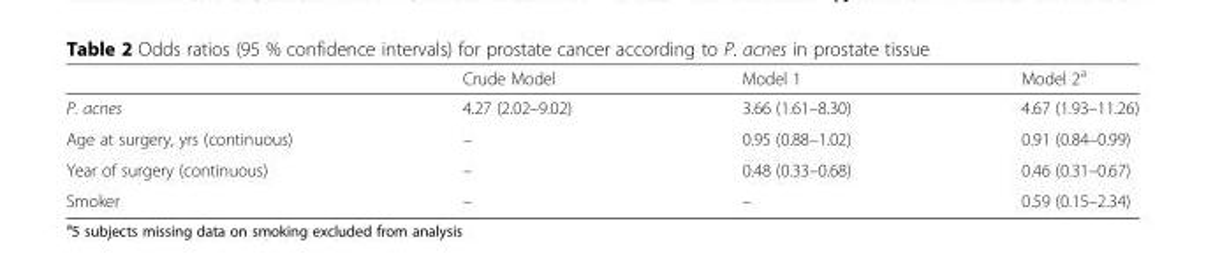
<table><thead><tr><td></td><td>Crude Model</td><td>Model 1</td><td>Model 2<sup>a</sup></td></tr></thead><tbody><tr><td>P. acnes</td><td>4.27 (2.02–9.02)</td><td>3.66 (1.61–8.30)</td><td>4.67 (1.93–11.26)</td></tr><tr><td>Age at surgery, yrs (continuous)</td><td>–</td><td>0.95 (0.88–1.02)</td><td>0.91 (0.84–0.99)</td></tr><tr><td>Year of surgery (continuous)</td><td>–</td><td>0.48 (0.33–0.68)</td><td>0.46 (0.31–0.67)</td></tr><tr><td>Smoker</td><td>–</td><td>–</td><td>0.59 (0.15–2.34)</td></tr></tbody></table>